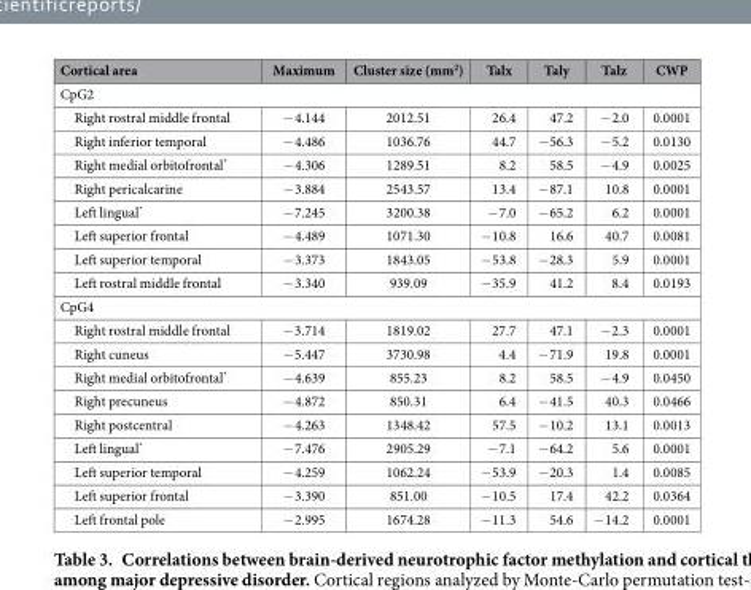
<table><thead><tr><td>Cortical area</td><td>Maximum</td><td>Cluster size (mm<sup>2</sup>)</td><td>Talx</td><td>Taly</td><td>Talz</td><td>CWP</td></tr></thead><tbody><tr><td colspan="7">CpG2</td></tr><tr><td>Right rostral middle frontal</td><td>− 4.144</td><td>2012.51</td><td>26.4</td><td>47.2</td><td>− 2.0</td><td>0.0001</td></tr><tr><td>Right inferior temporal</td><td>− 4.486</td><td>1036.76</td><td>44.7</td><td>− 56.3</td><td>− 5.2</td><td>0.0130</td></tr><tr><td>Right medial orbitofrontal*</td><td>− 4.306</td><td>1289.51</td><td>8.2</td><td>58.5</td><td>− 4.9</td><td>0.0025</td></tr><tr><td>Right pericalcarine</td><td>− 3.884</td><td>2543.57</td><td>13.4</td><td>− 87.1</td><td>10.8</td><td>0.0001</td></tr><tr><td>Left lingual*</td><td>− 7.245</td><td>3200.38</td><td>− 7.0</td><td>− 65.2</td><td>6.2</td><td>0.0001</td></tr><tr><td>Left superior frontal</td><td>− 4.489</td><td>1071.30</td><td>− 10.8</td><td>16.6</td><td>40.7</td><td>0.0081</td></tr><tr><td>Left superior temporal</td><td>− 3.373</td><td>1843.05</td><td>− 53.8</td><td>− 28.3</td><td>5.9</td><td>0.0001</td></tr><tr><td>Left rostral middle frontal</td><td>− 3.340</td><td>939.09</td><td>− 35.9</td><td>41.2</td><td>8.4</td><td>0.0193</td></tr><tr><td colspan="7">CpG4</td></tr><tr><td>Right rostral middle frontal</td><td>− 3.714</td><td>1819.02</td><td>27.7</td><td>47.1</td><td>− 2.3</td><td>0.0001</td></tr><tr><td>Right cuneus</td><td>− 5.447</td><td>3730.98</td><td>4.4</td><td>− 71.9</td><td>19.8</td><td>0.0001</td></tr><tr><td>Right medial orbitofrontal*</td><td>− 4.639</td><td>855.23</td><td>8.2</td><td>58.5</td><td>− 4.9</td><td>0.0450</td></tr><tr><td>Right precuneus</td><td>− 4.872</td><td>850.31</td><td>6.4</td><td>− 41.5</td><td>40.3</td><td>0.0466</td></tr><tr><td>Right postcentral</td><td>− 4.263</td><td>1348.42</td><td>57.5</td><td>− 10.2</td><td>13.1</td><td>0.0013</td></tr><tr><td>Left lingual*</td><td>− 7.476</td><td>2905.29</td><td>− 7.1</td><td>− 64.2</td><td>5.6</td><td>0.0001</td></tr><tr><td>Left superior temporal</td><td>− 4.259</td><td>1062.24</td><td>− 53.9</td><td>− 20.3</td><td>1.4</td><td>0.0085</td></tr><tr><td>Left superior frontal</td><td>− 3.390</td><td>851.00</td><td>− 10.5</td><td>17.4</td><td>42.2</td><td>0.0364</td></tr><tr><td>Left frontal pole</td><td>− 2.995</td><td>1674.28</td><td>− 11.3</td><td>54.6</td><td>− 14.2</td><td>0.0001</td></tr></tbody></table>